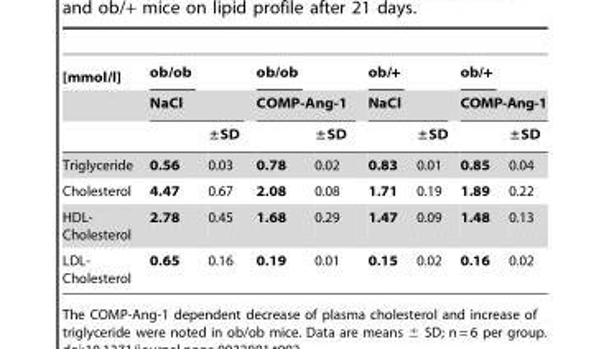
<table><thead><tr><td rowspan="3">[mmol/l]</td><td>ob/ob</td><td></td><td>ob/ob</td><td></td><td>ob/+</td><td></td><td>ob/+</td><td></td></tr><tr><td colspan="2">NaCl</td><td colspan="2">COMP-Ang-1</td><td colspan="2">NaCl</td><td colspan="2">COMP-Ang-1</td></tr><tr><td></td><td>±SD</td><td></td><td>±SD</td><td></td><td>±SD</td><td></td><td>±SD</td></tr></thead><tbody><tr><td>Triglyceride</td><td>0.56</td><td>0.03</td><td>0.78</td><td>0.02</td><td>0.83</td><td>0.01</td><td>0.85</td><td>0.04</td></tr><tr><td>Cholesterol</td><td>4.47</td><td>0.67</td><td>2.08</td><td>0.08</td><td>1.71</td><td>0.19</td><td>1.89</td><td>0.22</td></tr><tr><td>HDL- Cholesterol</td><td>2.78</td><td>0.45</td><td>1.68</td><td>0.29</td><td>1.47</td><td>0.09</td><td>1.48</td><td>0.13</td></tr><tr><td>LDL- Cholesterol</td><td>0.65</td><td>0.16</td><td>0.19</td><td>0.01</td><td>0.15</td><td>0.02</td><td>0.16</td><td>0.02</td></tr></tbody></table>